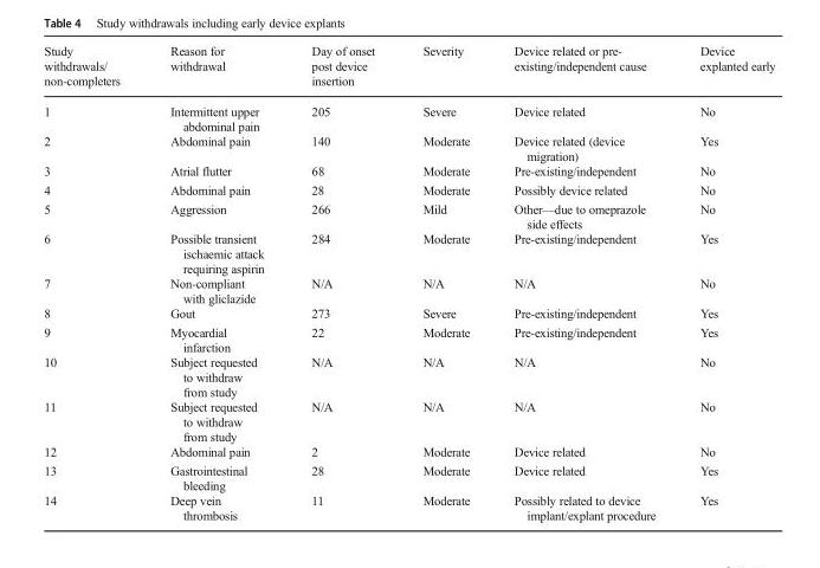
<table><thead><tr><td>Study withdrawals/ non-completers</td><td>Reason for withdrawal</td><td>Day of onset post device insertion</td><td>Severity</td><td>Device related or pre- existing/independent cause</td><td>Device explanted early</td></tr></thead><tbody><tr><td>1</td><td>Intermittent upper abdominal pain</td><td>205</td><td>Severe</td><td>Device related</td><td>No</td></tr><tr><td>2</td><td>Abdominal pain</td><td>140</td><td>Moderate</td><td>Device related (device migration)</td><td>Yes</td></tr><tr><td>3</td><td>Atrial flutter</td><td>68</td><td>Moderate</td><td>Pre-existing/independent</td><td>No</td></tr><tr><td>4</td><td>Abdominal pain</td><td>28</td><td>Moderate</td><td>Possibly device related</td><td>No</td></tr><tr><td>5</td><td>Aggression</td><td>266</td><td>Mild</td><td>Other—due to omeprazole side effects</td><td>No</td></tr><tr><td>6</td><td>Possible transient ischaemic attack requiring aspirin</td><td>284</td><td>Moderate</td><td>Pre-existing/independent</td><td>Yes</td></tr><tr><td>7</td><td>Non-compliant with gliclazide</td><td>N/A</td><td>N/A</td><td>N/A</td><td>No</td></tr><tr><td>8</td><td>Gout</td><td>273</td><td>Severe</td><td>Pre-existing/independent</td><td>Yes</td></tr><tr><td>9</td><td>Myocardial infarction</td><td>22</td><td>Moderate</td><td>Pre-existing/independent</td><td>Yes</td></tr><tr><td>10</td><td>Subject requested to withdraw from study</td><td>N/A</td><td>N/A</td><td>N/A</td><td>No</td></tr><tr><td>11</td><td>Subject requested to withdraw from study</td><td>N/A</td><td>N/A</td><td>N/A</td><td>No</td></tr><tr><td>12</td><td>Abdominal pain</td><td>2</td><td>Moderate</td><td>Device related</td><td>No</td></tr><tr><td>13</td><td>Gastrointestinal bleeding</td><td>28</td><td>Moderate</td><td>Device related</td><td>Yes</td></tr><tr><td>14</td><td>Deep vein thrombosis</td><td>11</td><td>Moderate</td><td>Possibly related to device implant/explant procedure</td><td>Yes</td></tr></tbody></table>